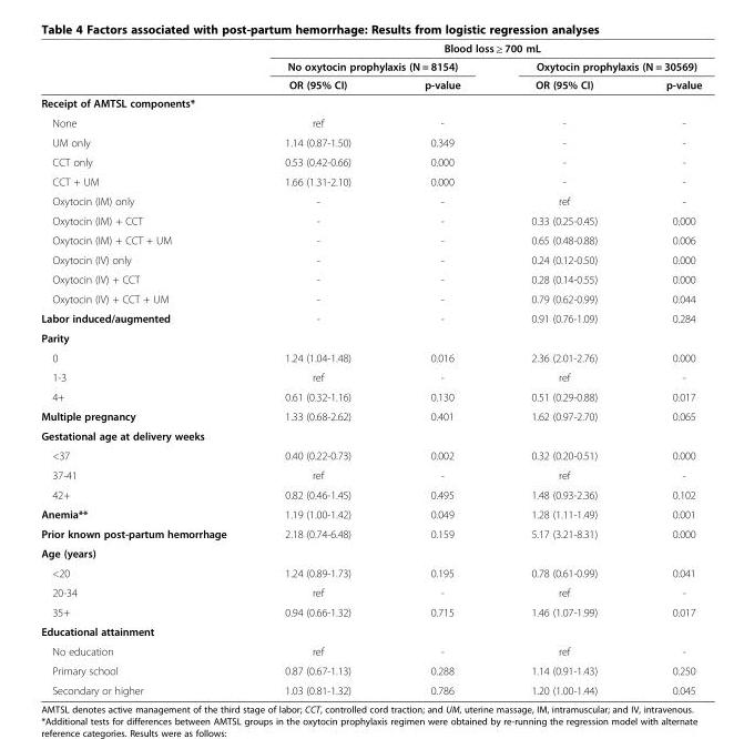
<table><thead><tr><td rowspan="3"></td><td colspan="4">Blood loss ≥ 700 mL</td></tr><tr><td colspan="2">No oxytocin prophylaxis (N = 8154)</td><td colspan="2">Oxytocin prophylaxis (N = 30569)</td></tr><tr><td>OR (95% CI)</td><td>p-value</td><td>OR (95% CI)</td><td>p-value</td></tr></thead><tbody><tr><td colspan="5">Receipt of AMTSL components*</td></tr><tr><td>None</td><td>ref</td><td>-</td><td>-</td><td>-</td></tr><tr><td>UM only</td><td>1.14 (0.87-1.50)</td><td>0.349</td><td>-</td><td>-</td></tr><tr><td>CCT only</td><td>0.53 (0.42-0.66)</td><td>0.000</td><td>-</td><td>-</td></tr><tr><td>CCT + UM</td><td>1.66 (1.31-2.10)</td><td>0.000</td><td>-</td><td>-</td></tr><tr><td>Oxytocin (IM) only</td><td>-</td><td>-</td><td>ref</td><td>-</td></tr><tr><td>Oxytocin (IM) + CCT</td><td>-</td><td>-</td><td>0.33 (0.25-0.45)</td><td>0.000</td></tr><tr><td>Oxytocin (IM) + CCT + UM</td><td>-</td><td>-</td><td>0.65 (0.48-0.88)</td><td>0.006</td></tr><tr><td>Oxytocin (IV) only</td><td>-</td><td>-</td><td>0.24 (0.12-0.50)</td><td>0.000</td></tr><tr><td>Oxytocin (IV) + CCT</td><td>-</td><td>-</td><td>0.28 (0.14-0.55)</td><td>0.000</td></tr><tr><td>Oxytocin (IV) + CCT + UM</td><td>-</td><td>-</td><td>0.79 (0.62-0.99)</td><td>0.044</td></tr><tr><td>Labor induced/augmented</td><td>-</td><td>-</td><td>0.91 (0.76-1.09)</td><td>0.284</td></tr><tr><td colspan="5">Parity</td></tr><tr><td>0</td><td>1.24 (1.04-1.48)</td><td>0.016</td><td>2.36 (2.01-2.76)</td><td>0.000</td></tr><tr><td>1-3</td><td>ref</td><td>-</td><td>ref</td><td>-</td></tr><tr><td>4+</td><td>0.61 (0.32-1.16)</td><td>0.130</td><td>0.51 (0.29-0.88)</td><td>0.017</td></tr><tr><td>Multiple pregnancy</td><td>1.33 (0.68-2.62)</td><td>0.401</td><td>1.62 (0.97-2.70)</td><td>0.065</td></tr><tr><td colspan="5">Gestational age at delivery weeks</td></tr><tr><td>&lt;37</td><td>0.40 (0.22-0.73)</td><td>0.002</td><td>0.32 (0.20-0.51)</td><td>0.000</td></tr><tr><td>37-41</td><td>ref</td><td>-</td><td>ref</td><td>-</td></tr><tr><td>42+</td><td>0.82 (0.46-1.45)</td><td>0.495</td><td>1.48 (0.93-2.36)</td><td>0.102</td></tr><tr><td>Anemia**</td><td>1.19 (1.00-1.42)</td><td>0.049</td><td>1.28 (1.11-1.49)</td><td>0.001</td></tr><tr><td>Prior known post-partum hemorrhage</td><td>2.18 (0.74-6.48)</td><td>0.159</td><td>5.17 (3.21-8.31)</td><td>0.000</td></tr><tr><td colspan="5">Age (years)</td></tr><tr><td>&lt;20</td><td>1.24 (0.89-1.73)</td><td>0.195</td><td>0.78 (0.61-0.99)</td><td>0.041</td></tr><tr><td>20-34</td><td>ref</td><td>-</td><td>ref</td><td>-</td></tr><tr><td>35+</td><td>0.94 (0.66-1.32)</td><td>0.715</td><td>1.46 (1.07-1.99)</td><td>0.017</td></tr><tr><td colspan="5">Educational attainment</td></tr><tr><td>No education</td><td>ref</td><td>-</td><td>ref</td><td>-</td></tr><tr><td>Primary school</td><td>0.87 (0.67-1.13)</td><td>0.288</td><td>1.14 (0.91-1.43)</td><td>0.250</td></tr><tr><td>Secondary or higher</td><td>1.03 (0.81-1.32)</td><td>0.786</td><td>1.20 (1.00-1.44)</td><td>0.045</td></tr></tbody></table>